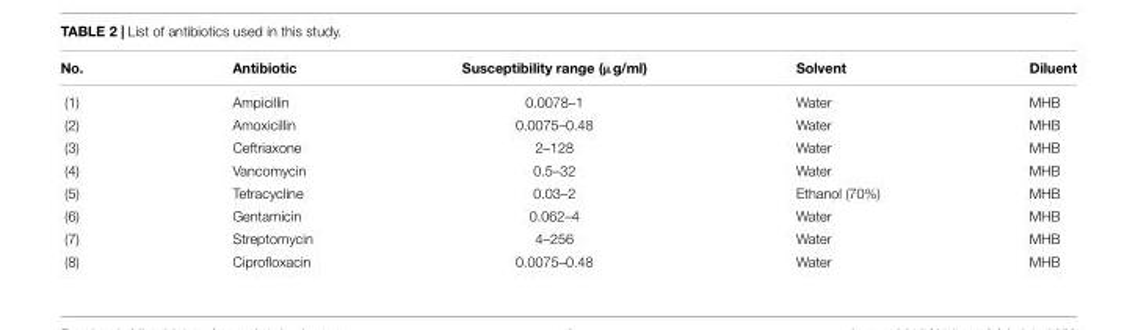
<table><thead><tr><td>No.</td><td>Antibiotic</td><td>Susceptibility range (µg/ml)</td><td>Solvent</td><td>Diluent</td></tr></thead><tbody><tr><td>(1)</td><td>Ampicillin</td><td>0.0078–1</td><td>Water</td><td>MHB</td></tr><tr><td>(2)</td><td>Amoxicillin</td><td>0.0075–0.48</td><td>Water</td><td>MHB</td></tr><tr><td>(3)</td><td>Ceftriaxone</td><td>2–128</td><td>Water</td><td>MHB</td></tr><tr><td>(4)</td><td>Vancomycin</td><td>0.5–32</td><td>Water</td><td>MHB</td></tr><tr><td>(5)</td><td>Tetracycline</td><td>0.03–2</td><td>Ethanol (70%)</td><td>MHB</td></tr><tr><td>(6)</td><td>Gentamicin</td><td>0.062–4</td><td>Water</td><td>MHB</td></tr><tr><td>(7)</td><td>Streptomycin</td><td>4–256</td><td>Water</td><td>MHB</td></tr><tr><td>(8)</td><td>Ciprofloxacin</td><td>0.0075–0.48</td><td>Water</td><td>MHB</td></tr></tbody></table>